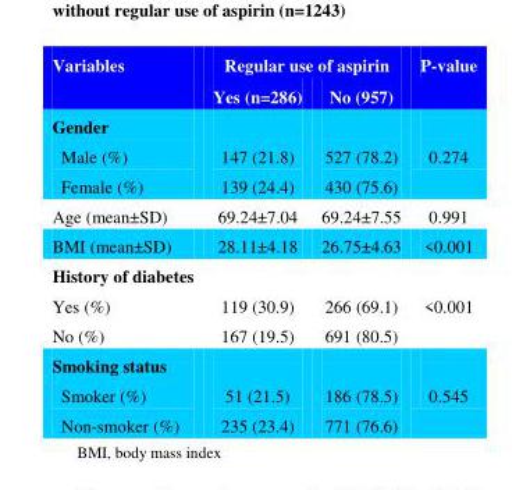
<table><thead><tr><td rowspan="2">Variables</td><td colspan="2">Regular use of aspirin</td><td rowspan="2">P-value</td></tr><tr><td>Yes (n=286)</td><td>No (957)</td></tr></thead><tbody><tr><td colspan="4">Gender</td></tr><tr><td>Male (%) Female (%)</td><td>147 (21.8) 139 (24.4)</td><td>527 (78.2) 430 (75.6)</td><td>0.274</td></tr><tr><td>Age (mean±SD)</td><td>69.24±7.04</td><td>69.24±7.55</td><td>0.991</td></tr><tr><td>BMI (mean±SD)</td><td>28.11±4.18</td><td>26.75±4.63</td><td>&lt;0.001</td></tr><tr><td colspan="4">History of diabetes</td></tr><tr><td>Yes (%) No (%)</td><td>119 (30.9) 167 (19.5)</td><td>266 (69.1) 691 (80.5)</td><td>&lt;0.001</td></tr><tr><td colspan="4">Smoking status</td></tr><tr><td>Smoker (%) Non-smoker (%)</td><td>51 (21.5) 235 (23.4)</td><td>186 (78.5) 771 (76.6)</td><td>0.545</td></tr></tbody></table>